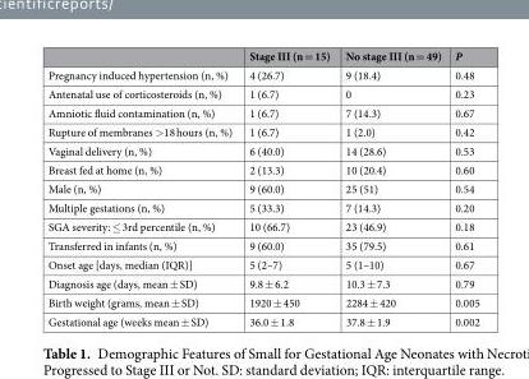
<table><thead><tr><td></td><td>Stage III (n = 15)</td><td>No stage III (n = 49)</td><td>P</td></tr></thead><tbody><tr><td>Pregnancy induced hypertension (n, %)</td><td>4 (26.7)</td><td>9 (18.4)</td><td>0.48</td></tr><tr><td>Antenatal use of corticosteroids (n, %)</td><td>1 (6.7)</td><td>0</td><td>0.23</td></tr><tr><td>Amniotic fluid contamination (n, %)</td><td>1 (6.7)</td><td>7 (14.3)</td><td>0.67</td></tr><tr><td>Rupture of membranes &gt;18 hours (n, %)</td><td>1 (6.7)</td><td>1 (2.0)</td><td>0.42</td></tr><tr><td>Vaginal delivery (n, %)</td><td>6 (40.0)</td><td>14 (28.6)</td><td>0.53</td></tr><tr><td>Breast fed at home (n, %)</td><td>2 (13.3)</td><td>10 (20.4)</td><td>0.60</td></tr><tr><td>Male (n, %)</td><td>9 (60.0)</td><td>25 (51)</td><td>0.54</td></tr><tr><td>Multiple gestations (n, %)</td><td>5 (33.3)</td><td>7 (14.3)</td><td>0.20</td></tr><tr><td>SGA severity: ≤ 3rd percentile (n, %)</td><td>10 (66.7)</td><td>23 (46.9)</td><td>0.18</td></tr><tr><td>Transferred in infants (n, %)</td><td>9 (60.0)</td><td>35 (79.5)</td><td>0.61</td></tr><tr><td>Onset age [days, median (IQR)]</td><td>5 (2–7)</td><td>5 (1–10)</td><td>0.67</td></tr><tr><td>Diagnosis age (days, mean ± SD)</td><td>9.8 ± 6.2</td><td>10.3 ± 7.3</td><td>0.79</td></tr><tr><td>Birth weight (grams, mean ± SD)</td><td>1920 ± 450</td><td>2284 ± 420</td><td>0.005</td></tr><tr><td>Gestational age (weeks mean ± SD)</td><td>36.0 ± 1.8</td><td>37.8 ± 1.9</td><td>0.002</td></tr></tbody></table>